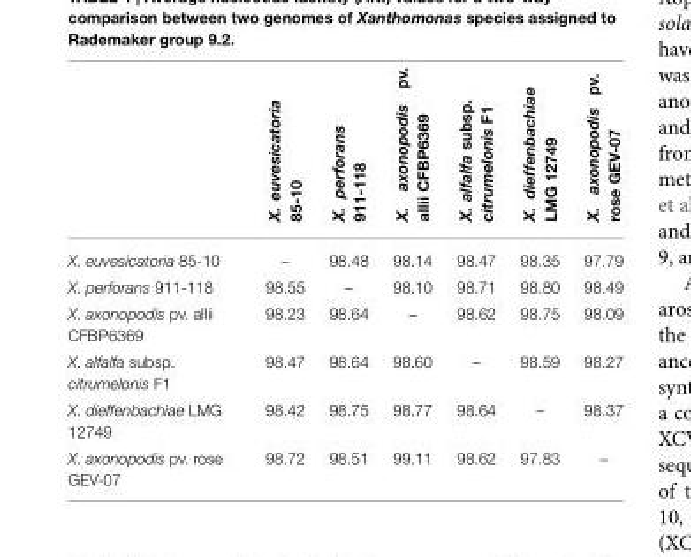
<table><thead><tr><td></td><td>X. euvesicatoria 85-10</td><td>X. perforans 911-118</td><td>X. axonopodis pv. allii CFBP6369</td><td>X. alfalfa subsp. citrumelonis F1</td><td>X. dieffenbachiae LMG 12749</td><td>X. axonopodis pv. rose GEV-07</td></tr></thead><tbody><tr><td>X. euvesicatoria 85-10</td><td>–</td><td>98.48</td><td>98.14</td><td>98.47</td><td>98.35</td><td>97.79</td></tr><tr><td>X. perforans 911-118</td><td>98.55</td><td>–</td><td>98.10</td><td>98.71</td><td>98.80</td><td>98.49</td></tr><tr><td>X. axonopodis pv. allii CFBP6369</td><td>98.23</td><td>98.64</td><td>–</td><td>98.62</td><td>98.75</td><td>98.09</td></tr><tr><td>X. alfalfa subsp. citrumelonis F1</td><td>98.47</td><td>98.64</td><td>98.60</td><td>–</td><td>98.59</td><td>98.27</td></tr><tr><td>X. dieffenbachiae LMG 12749</td><td>98.42</td><td>98.75</td><td>98.77</td><td>98.64</td><td>–</td><td>98.37</td></tr><tr><td>X. axonopodis pv. rose GEV-07</td><td>98.72</td><td>98.51</td><td>99.11</td><td>98.62</td><td>97.83</td><td>–</td></tr></tbody></table>